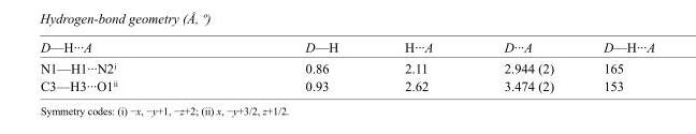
<table><tbody><tr><td>D—H···A</td><td>D—H</td><td>H···A</td><td>D···A</td><td>D—H···A</td></tr><tr><td>N1—H1···N2<sup>i</sup></td><td>0.86</td><td>2.11</td><td>2.944 (2)</td><td>165</td></tr><tr><td>C3—H3···O1<sup>ii</sup></td><td>0.93</td><td>2.62</td><td>3.474 (2)</td><td>153</td></tr></tbody></table>